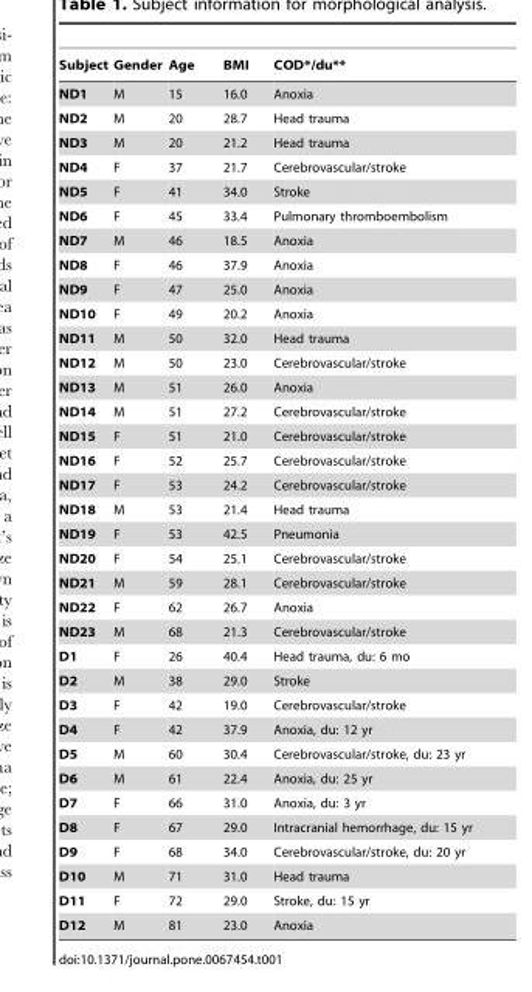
<table><thead><tr><td>Subject</td><td>Gender</td><td>Age</td><td>BMI</td><td>COD*/du**</td></tr></thead><tbody><tr><td>ND1</td><td>M</td><td>15</td><td>16.0</td><td>Anoxia</td></tr><tr><td>ND2</td><td>M</td><td>20</td><td>28.7</td><td>Head trauma</td></tr><tr><td>ND3</td><td>M</td><td>20</td><td>21.2</td><td>Head trauma</td></tr><tr><td>ND4</td><td>F</td><td>37</td><td>21.7</td><td>Cerebrovascular/stroke</td></tr><tr><td>ND5</td><td>F</td><td>41</td><td>34.0</td><td>Stroke</td></tr><tr><td>ND6</td><td>F</td><td>45</td><td>33.4</td><td>Pulmonary thromboembolism</td></tr><tr><td>ND7</td><td>M</td><td>46</td><td>18.5</td><td>Anoxia</td></tr><tr><td>ND8</td><td>F</td><td>46</td><td>37.9</td><td>Anoxia</td></tr><tr><td>ND9</td><td>F</td><td>47</td><td>25.0</td><td>Anoxia</td></tr><tr><td>ND10</td><td>F</td><td>49</td><td>20.2</td><td>Anoxia</td></tr><tr><td>ND11</td><td>M</td><td>50</td><td>32.0</td><td>Head trauma</td></tr><tr><td>ND12</td><td>M</td><td>50</td><td>23.0</td><td>Cerebrovascular/stroke</td></tr><tr><td>ND13</td><td>M</td><td>51</td><td>26.0</td><td>Anoxia</td></tr><tr><td>ND14</td><td>M</td><td>51</td><td>27.2</td><td>Cerebrovascular/stroke</td></tr><tr><td>ND15</td><td>F</td><td>51</td><td>21.0</td><td>Cerebrovascular/stroke</td></tr><tr><td>ND16</td><td>F</td><td>52</td><td>25.7</td><td>Cerebrovascular/stroke</td></tr><tr><td>ND17</td><td>F</td><td>53</td><td>24.2</td><td>Cerebrovascular/stroke</td></tr><tr><td>ND18</td><td>M</td><td>53</td><td>21.4</td><td>Head trauma</td></tr><tr><td>ND19</td><td>F</td><td>53</td><td>42.5</td><td>Pneumonia</td></tr><tr><td>ND20</td><td>F</td><td>54</td><td>25.1</td><td>Cerebrovascular/stroke</td></tr><tr><td>ND21</td><td>M</td><td>59</td><td>28.1</td><td>Cerebrovascular/stroke</td></tr><tr><td>ND22</td><td>F</td><td>62</td><td>26.7</td><td>Anoxia</td></tr><tr><td>ND23</td><td>M</td><td>68</td><td>21.3</td><td>Cerebrovascular/stroke</td></tr><tr><td>D1</td><td>F</td><td>26</td><td>40.4</td><td>Head trauma, du: 6 mo</td></tr><tr><td>D2</td><td>M</td><td>38</td><td>29.0</td><td>Stroke</td></tr><tr><td>D3</td><td>F</td><td>42</td><td>19.0</td><td>Cerebrovascular/stroke</td></tr><tr><td>D4</td><td>F</td><td>42</td><td>37.9</td><td>Anoxia, du: 12 yr</td></tr><tr><td>D5</td><td>M</td><td>60</td><td>30.4</td><td>Cerebrovascular/stroke, du: 23 yr</td></tr><tr><td>D6</td><td>M</td><td>61</td><td>22.4</td><td>Anoxia, du: 25 yr</td></tr><tr><td>D7</td><td>F</td><td>66</td><td>31.0</td><td>Anoxia, du: 3 yr</td></tr><tr><td>D8</td><td>F</td><td>67</td><td>29.0</td><td>Intracranial hemorrhage, du: 15 yr</td></tr><tr><td>D9</td><td>F</td><td>68</td><td>34.0</td><td>Cerebrovascular/stroke, du: 20 yr</td></tr><tr><td>D10</td><td>M</td><td>71</td><td>31.0</td><td>Head trauma</td></tr><tr><td>D11</td><td>F</td><td>72</td><td>29.0</td><td>Stroke, du: 15 yr</td></tr><tr><td>D12</td><td>M</td><td>81</td><td>23.0</td><td>Anoxia</td></tr></tbody></table>